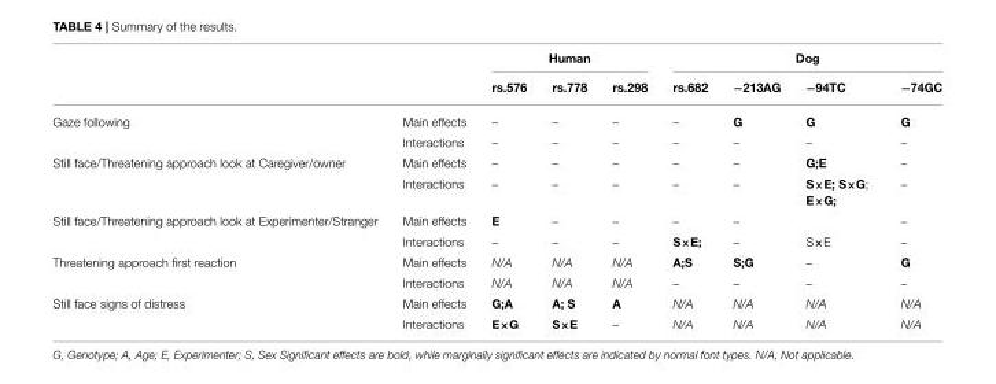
<table><thead><tr><td rowspan="2"></td><td rowspan="2"></td><td colspan="3">Human</td><td colspan="4">Dog</td></tr><tr><td>rs.576</td><td>rs.778</td><td>rs.298</td><td>rs.682</td><td>−213AG</td><td>−94TC</td><td>−74GC</td></tr></thead><tbody><tr><td rowspan="2">Gaze following</td><td>Main effects</td><td>–</td><td>–</td><td>–</td><td>–</td><td>G</td><td>G</td><td>G</td></tr><tr><td>Interactions</td><td>–</td><td>–</td><td>–</td><td>–</td><td>–</td><td>–</td><td>–</td></tr><tr><td rowspan="2">Still face/Threatening approach look at Caregiver/owner</td><td>Main effects</td><td>–</td><td>–</td><td>–</td><td>–</td><td>–</td><td>G;E</td><td>–</td></tr><tr><td>Interactions</td><td>–</td><td>–</td><td>–</td><td>–</td><td>–</td><td>S×E; S×G; E×G;</td><td>–</td></tr><tr><td rowspan="2">Still face/Threatening approach look at Experimenter/Stranger</td><td>Main effects</td><td>E</td><td>–</td><td>–</td><td>–</td><td>–</td><td></td><td>–</td></tr><tr><td>Interactions</td><td>–</td><td>–</td><td>–</td><td>S×E;</td><td>–</td><td>S×E</td><td>–</td></tr><tr><td rowspan="2">Threatening approach first reaction</td><td>Main effects</td><td>N/A</td><td>N/A</td><td>N/A</td><td>A;S</td><td>S;G</td><td>–</td><td>G</td></tr><tr><td>Interactions</td><td>N/A</td><td>N/A</td><td>N/A</td><td>–</td><td>–</td><td>–</td><td>–</td></tr><tr><td rowspan="2">Still face signs of distress</td><td>Main effects</td><td>G;A</td><td>A; S</td><td>A</td><td>N/A</td><td>N/A</td><td>N/A</td><td>N/A</td></tr><tr><td>Interactions</td><td>E×G</td><td>S×E</td><td>–</td><td>N/A</td><td>N/A</td><td>N/A</td><td>N/A</td></tr></tbody></table>